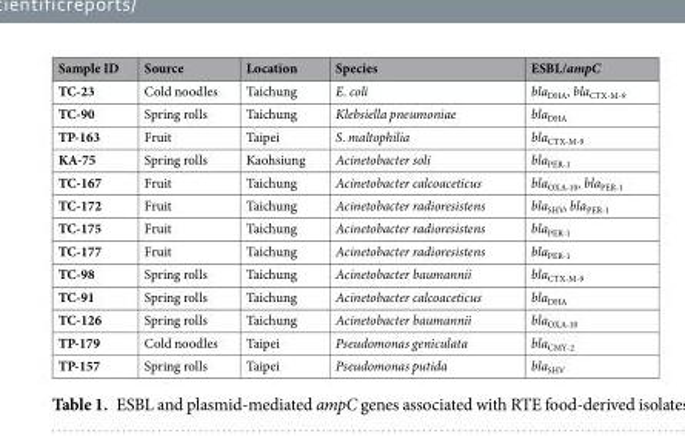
<table><thead><tr><td>Sample ID</td><td>Source</td><td>Location</td><td>Species</td><td>ESBL/ampC</td></tr></thead><tbody><tr><td>TC-23</td><td>Cold noodles</td><td>Taichung</td><td>E. coli</td><td>bla<sub>DHA</sub>, bla<sub>CTX-M-9</sub></td></tr><tr><td>TC-90</td><td>Spring rolls</td><td>Taichung</td><td>Klebsiella pneumoniae</td><td>bla<sub>DHA</sub></td></tr><tr><td>TP-163</td><td>Fruit</td><td>Taipei</td><td>S. maltophilia</td><td>bla<sub>CTX-M-9</sub></td></tr><tr><td>KA-75</td><td>Spring rolls</td><td>Kaohsiung</td><td>Acinetobacter soli</td><td>bla<sub>PER-1</sub></td></tr><tr><td>TC-167</td><td>Fruit</td><td>Taichung</td><td>Acinetobacter calcoaceticus</td><td>bla<sub>OXA-10</sub>, bla<sub>PER-1</sub></td></tr><tr><td>TC-172</td><td>Fruit</td><td>Taichung</td><td>Acinetobacter radioresistens</td><td>bla<sub>SHV</sub>, bla<sub>PER-1</sub></td></tr><tr><td>TC-175</td><td>Fruit</td><td>Taichung</td><td>Acinetobacter radioresistens</td><td>bla<sub>PER-1</sub></td></tr><tr><td>TC-177</td><td>Fruit</td><td>Taichung</td><td>Acinetobacter radioresistens</td><td>bla<sub>PER-1</sub></td></tr><tr><td>TC-98</td><td>Spring rolls</td><td>Taichung</td><td>Acinetobacter baumannii</td><td>bla<sub>CTX-M-9</sub></td></tr><tr><td>TC-91</td><td>Spring rolls</td><td>Taichung</td><td>Acinetobacter calcoaceticus</td><td>bla<sub>DHA</sub></td></tr><tr><td>TC-126</td><td>Spring rolls</td><td>Taichung</td><td>Acinetobacter baumannii</td><td>bla<sub>OXA-10</sub></td></tr><tr><td>TP-179</td><td>Cold noodles</td><td>Taipei</td><td>Pseudomonas geniculata</td><td>bla<sub>CMY-2</sub></td></tr><tr><td>TP-157</td><td>Spring rolls</td><td>Taipei</td><td>Pseudomonas putida</td><td>bla<sub>SHV</sub></td></tr></tbody></table>